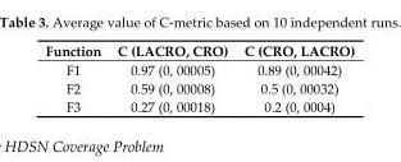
<table><thead><tr><td>Function</td><td>C (LACRO, CRO)</td><td>C (CRO, LACRO)</td></tr></thead><tbody><tr><td>F1</td><td>0.97 (0, 00005)</td><td>0.89 (0, 00042)</td></tr><tr><td>F2</td><td>0.59 (0, 00008)</td><td>0.5 (0, 00032)</td></tr><tr><td>F3</td><td>0.27 (0, 00018)</td><td>0.2 (0, 0004)</td></tr></tbody></table>